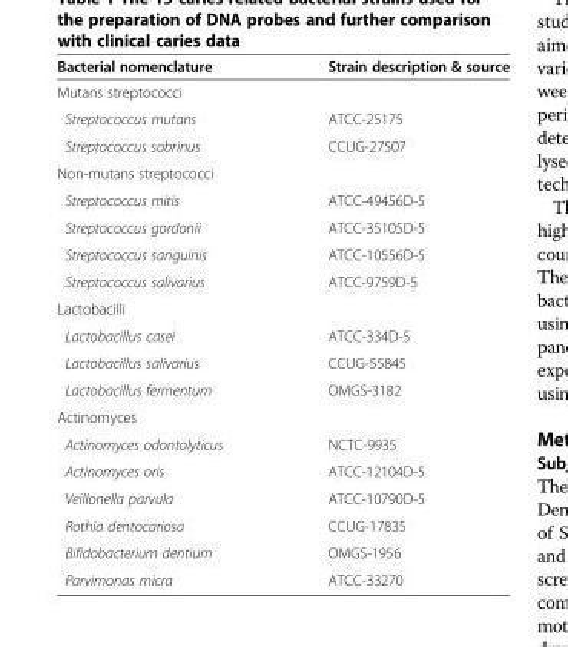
<table><thead><tr><td>Bacterial nomenclature</td><td>Strain description &amp; source</td></tr></thead><tbody><tr><td colspan="2">Mutans streptococci</td></tr><tr><td>Streptococcus mutans</td><td>ATCC-25175</td></tr><tr><td>Streptococcus sobrinus</td><td>CCUG-27507</td></tr><tr><td colspan="2">Non-mutans streptococci</td></tr><tr><td>Streptococcus mitis</td><td>ATCC-49456D-5</td></tr><tr><td>Streptococcus gordonii</td><td>ATCC-35105D-5</td></tr><tr><td>Streptococcus sanguinis</td><td>ATCC-10556D-5</td></tr><tr><td>Streptococcus salivarius</td><td>ATCC-9759D-5</td></tr><tr><td colspan="2">Lactobacilli</td></tr><tr><td>Lactobacillus casei</td><td>ATCC-334D-5</td></tr><tr><td>Lactobacillus salivarius</td><td>CCUG-55845</td></tr><tr><td>Lactobacillus fermentum</td><td>OMGS-3182</td></tr><tr><td colspan="2">Actinomyces</td></tr><tr><td>Actinomyces odontolyticus</td><td>NCTC-9935</td></tr><tr><td>Actinomyces oris</td><td>ATCC-12104D-5</td></tr><tr><td>Veillonella parvula</td><td>ATCC-10790D-5</td></tr><tr><td>Rothia dentocariosa</td><td>CCUG-17835</td></tr><tr><td>Bifidobacterium dentium</td><td>OMGS-1956</td></tr><tr><td>Parvimonas micra</td><td>ATCC-33270</td></tr></tbody></table>